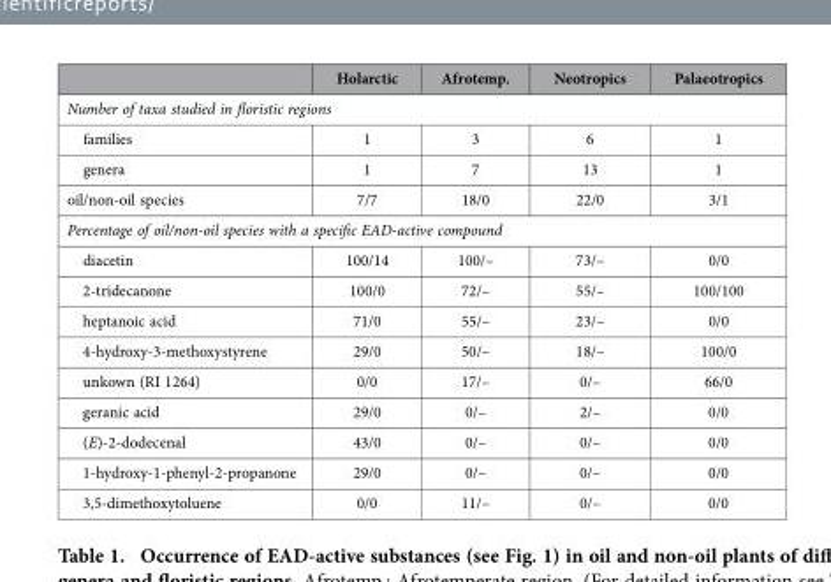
<table><thead><tr><td></td><td>Holarctic</td><td>Afrotemp.</td><td>Neotropics</td><td>Palaeotropics</td></tr></thead><tbody><tr><td colspan="5">Number of taxa studied in floristic regions</td></tr><tr><td>families</td><td>1</td><td>3</td><td>6</td><td>1</td></tr><tr><td>genera</td><td>1</td><td>7</td><td>13</td><td>1</td></tr><tr><td>oil/non-oil species</td><td>7/7</td><td>18/0</td><td>22/0</td><td>3/1</td></tr><tr><td colspan="5">Percentage of oil/non-oil species with a specific EAD-active compound</td></tr><tr><td>diacetin</td><td>100/14</td><td>100/–</td><td>73/–</td><td>0/0</td></tr><tr><td>2-tridecanone</td><td>100/0</td><td>72/–</td><td>55/–</td><td>100/100</td></tr><tr><td>heptanoic acid</td><td>71/0</td><td>55/–</td><td>23/–</td><td>0/0</td></tr><tr><td>4-hydroxy-3-methoxystyrene</td><td>29/0</td><td>50/–</td><td>18/–</td><td>100/0</td></tr><tr><td>unkown (RI 1264)</td><td>0/0</td><td>17/–</td><td>0/–</td><td>66/0</td></tr><tr><td>geranic acid</td><td>29/0</td><td>0/–</td><td>2/–</td><td>0/0</td></tr><tr><td>(E)-2-dodecenal</td><td>43/0</td><td>0/–</td><td>0/–</td><td>0/0</td></tr><tr><td>1-hydroxy-1-phenyl-2-propanone</td><td>29/0</td><td>0/–</td><td>0/–</td><td>0/0</td></tr><tr><td>3,5-dimethoxytoluene</td><td>0/0</td><td>11/–</td><td>0/–</td><td>0/0</td></tr></tbody></table>